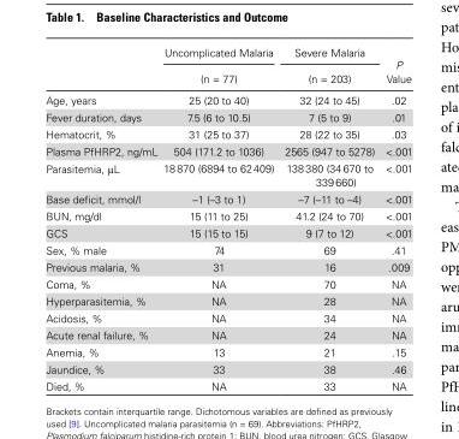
<table><thead><tr><td rowspan="2"></td><td rowspan="2">Uncomplicated Malaria (n = 77)</td><td rowspan="2">Severe Malaria (n = 203)</td><td rowspan="2">P Value</td></tr><tr></tr></thead><tbody><tr><td>Age, years</td><td>25 (20 to 40)</td><td>32 (24 to 45)</td><td>.02</td></tr><tr><td>Fever duration, days</td><td>7.5 (6 to 10.5)</td><td>7 (5 to 9)</td><td>.01</td></tr><tr><td>Hematocrit, %</td><td>31 (25 to 37)</td><td>28 (22 to 35)</td><td>.03</td></tr><tr><td>Plasma PfHRP2, ng/mL</td><td>504 (171.2 to 1036)</td><td>2565 (947 to 5278)</td><td>&lt;.001</td></tr><tr><td>Parasitemia, μL</td><td>18 870 (6894 to 62 409)</td><td>138 380 (34 670 to 339 660)</td><td>&lt;.001</td></tr><tr><td>Base deficit, mmol/l</td><td>–1 (–3 to 1)</td><td>–7 (–11 to –4)</td><td>&lt;.001</td></tr><tr><td>BUN, mg/dl</td><td>15 (11 to 25)</td><td>41.2 (24 to 70)</td><td>&lt;.001</td></tr><tr><td>GCS</td><td>15 (15 to 15)</td><td>9 (7 to 12)</td><td>&lt;.001</td></tr><tr><td>Sex, % male</td><td>74</td><td>69</td><td>.41</td></tr><tr><td>Previous malaria, %</td><td>31</td><td>16</td><td>.009</td></tr><tr><td>Coma, %</td><td>NA</td><td>70</td><td>NA</td></tr><tr><td>Hyperparasitemia, %</td><td>NA</td><td>28</td><td>NA</td></tr><tr><td>Acidosis, %</td><td>NA</td><td>34</td><td>NA</td></tr><tr><td>Acute renal failure, %</td><td>NA</td><td>24</td><td>NA</td></tr><tr><td>Anemia, %</td><td>13</td><td>21</td><td>.15</td></tr><tr><td>Jaundice, %</td><td>33</td><td>38</td><td>.46</td></tr><tr><td>Died, %</td><td>NA</td><td>33</td><td>NA</td></tr></tbody></table>